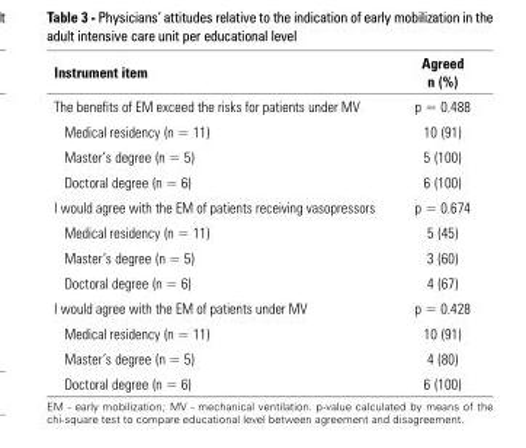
<table><thead><tr><td>Instrument item</td><td>Agreed n (%)</td></tr></thead><tbody><tr><td>The benefits of EM exceed the risks for patients under MV</td><td>p = 0.488</td></tr><tr><td>Medical residency (n = 11)</td><td>10 (91)</td></tr><tr><td>Master’s degree (n = 5)</td><td>5 (100)</td></tr><tr><td>Doctoral degree (n = 6)</td><td>6 (100)</td></tr><tr><td>I would agree with the EM of patients receiving vasopressors</td><td>p = 0.674</td></tr><tr><td>Medical residency (n = 11)</td><td>5 (45)</td></tr><tr><td>Master’s degree (n = 5)</td><td>3 (60)</td></tr><tr><td>Doctoral degree (n = 6)</td><td>4 (67)</td></tr><tr><td>I would agree with the EM of patients under MV</td><td>p = 0.428</td></tr><tr><td>Medical residency (n = 11)</td><td>10 (91)</td></tr><tr><td>Master’s degree (n = 5)</td><td>4 (80)</td></tr><tr><td>Doctoral degree (n = 6)</td><td>6 (100)</td></tr></tbody></table>